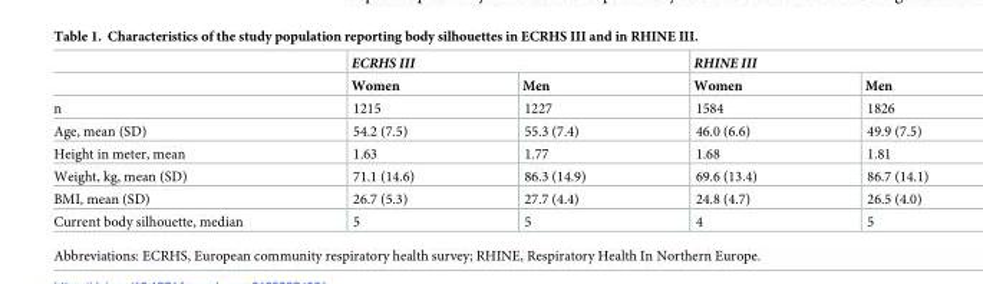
<table><thead><tr><td rowspan="2"></td><td colspan="2">ECRHS III</td><td colspan="2">RHINE III</td></tr><tr><td>Women</td><td>Men</td><td>Women</td><td>Men</td></tr></thead><tbody><tr><td>n</td><td>1215</td><td>1227</td><td>1584</td><td>1826</td></tr><tr><td>Age, mean (SD)</td><td>54.2 (7.5)</td><td>55.3 (7.4)</td><td>46.0 (6.6)</td><td>49.9 (7.5)</td></tr><tr><td>Height in meter, mean</td><td>1.63</td><td>1.77</td><td>1.68</td><td>1.81</td></tr><tr><td>Weight, kg, mean (SD)</td><td>71.1 (14.6)</td><td>86.3 (14.9)</td><td>69.6 (13.4)</td><td>86.7 (14.1)</td></tr><tr><td>BMI, mean (SD)</td><td>26.7 (5.3)</td><td>27.7 (4.4)</td><td>24.8 (4.7)</td><td>26.5 (4.0)</td></tr><tr><td>Current body silhouette, median</td><td>5</td><td>5</td><td>4</td><td>5</td></tr></tbody></table>